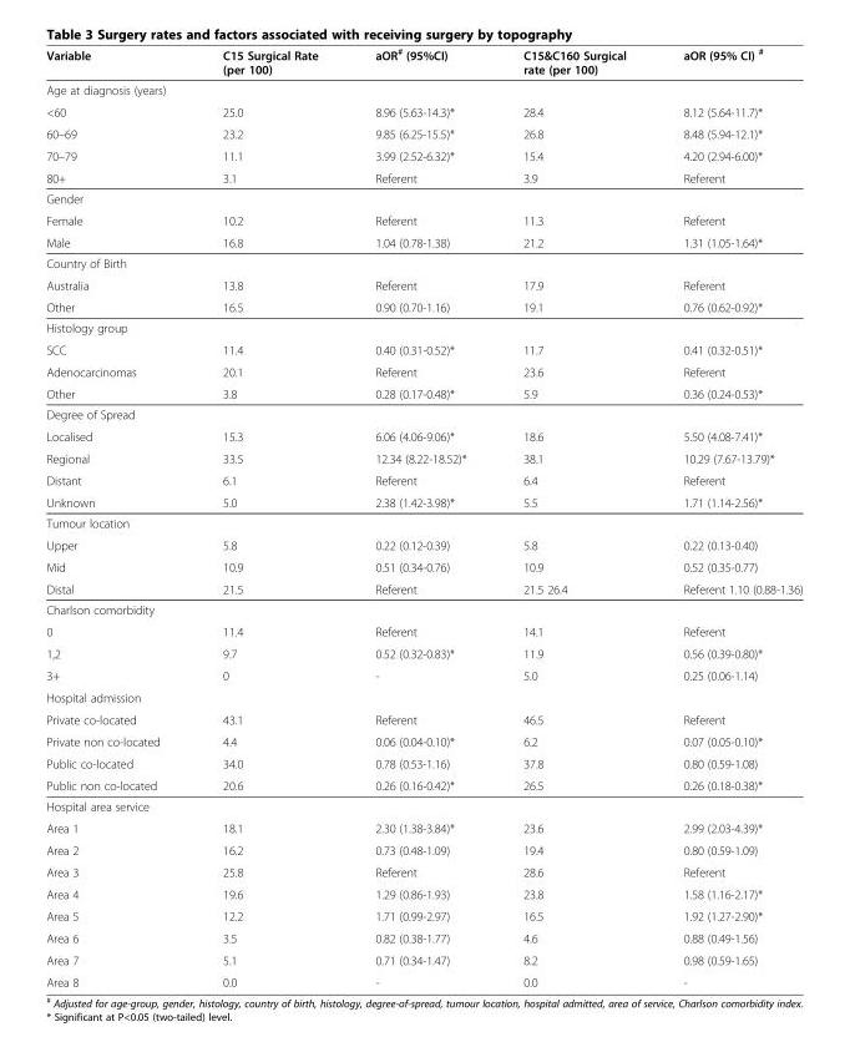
<table><thead><tr><td>Variable</td><td>C15 Surgical Rate (per 100)</td><td>aOR<sup>#</sup> (95%CI)</td><td>C15&amp;C160 Surgical rate (per 100)</td><td>aOR (95% CI) <sup>#</sup></td></tr></thead><tbody><tr><td colspan="5">Age at diagnosis (years)</td></tr><tr><td>&lt;60</td><td>25.0</td><td>8.96 (5.63-14.3)*</td><td>28.4</td><td>8.12 (5.64-11.7)*</td></tr><tr><td>60–69</td><td>23.2</td><td>9.85 (6.25-15.5)*</td><td>26.8</td><td>8.48 (5.94-12.1)*</td></tr><tr><td>70–79</td><td>11.1</td><td>3.99 (2.52-6.32)*</td><td>15.4</td><td>4.20 (2.94-6.00)*</td></tr><tr><td>80+</td><td>3.1</td><td>Referent</td><td>3.9</td><td>Referent</td></tr><tr><td colspan="5">Gender</td></tr><tr><td>Female</td><td>10.2</td><td>Referent</td><td>11.3</td><td>Referent</td></tr><tr><td>Male</td><td>16.8</td><td>1.04 (0.78-1.38)</td><td>21.2</td><td>1.31 (1.05-1.64)*</td></tr><tr><td colspan="5">Country of Birth</td></tr><tr><td>Australia</td><td>13.8</td><td>Referent</td><td>17.9</td><td>Referent</td></tr><tr><td>Other</td><td>16.5</td><td>0.90 (0.70-1.16)</td><td>19.1</td><td>0.76 (0.62-0.92)*</td></tr><tr><td colspan="5">Histology group</td></tr><tr><td>SCC</td><td>11.4</td><td>0.40 (0.31-0.52)*</td><td>11.7</td><td>0.41 (0.32-0.51)*</td></tr><tr><td>Adenocarcinomas</td><td>20.1</td><td>Referent</td><td>23.6</td><td>Referent</td></tr><tr><td>Other</td><td>3.8</td><td>0.28 (0.17-0.48)*</td><td>5.9</td><td>0.36 (0.24-0.53)*</td></tr><tr><td colspan="5">Degree of Spread</td></tr><tr><td>Localised</td><td>15.3</td><td>6.06 (4.06-9.06)*</td><td>18.6</td><td>5.50 (4.08-7.41)*</td></tr><tr><td>Regional</td><td>33.5</td><td>12.34 (8.22-18.52)*</td><td>38.1</td><td>10.29 (7.67-13.79)*</td></tr><tr><td>Distant</td><td>6.1</td><td>Referent</td><td>6.4</td><td>Referent</td></tr><tr><td>Unknown</td><td>5.0</td><td>2.38 (1.42-3.98)*</td><td>5.5</td><td>1.71 (1.14-2.56)*</td></tr><tr><td colspan="5">Tumour location</td></tr><tr><td>Upper</td><td>5.8</td><td>0.22 (0.12-0.39)</td><td>5.8</td><td>0.22 (0.13-0.40)</td></tr><tr><td>Mid</td><td>10.9</td><td>0.51 (0.34-0.76)</td><td>10.9</td><td>0.52 (0.35-0.77)</td></tr><tr><td>Distal</td><td>21.5</td><td>Referent</td><td>21.5 26.4</td><td>Referent 1.10 (0.88-1.36)</td></tr><tr><td colspan="5">Charlson comorbidity</td></tr><tr><td>0</td><td>11.4</td><td>Referent</td><td>14.1</td><td>Referent</td></tr><tr><td>1,2</td><td>9.7</td><td>0.52 (0.32-0.83)*</td><td>11.9</td><td>0.56 (0.39-0.80)*</td></tr><tr><td>3+</td><td>0</td><td>-</td><td>5.0</td><td>0.25 (0.06-1.14)</td></tr><tr><td colspan="5">Hospital admission</td></tr><tr><td>Private co-located</td><td>43.1</td><td>Referent</td><td>46.5</td><td>Referent</td></tr><tr><td>Private non co-located</td><td>4.4</td><td>0.06 (0.04-0.10)*</td><td>6.2</td><td>0.07 (0.05-0.10)*</td></tr><tr><td>Public co-located</td><td>34.0</td><td>0.78 (0.53-1.16)</td><td>37.8</td><td>0.80 (0.59-1.08)</td></tr><tr><td>Public non co-located</td><td>20.6</td><td>0.26 (0.16-0.42)*</td><td>26.5</td><td>0.26 (0.18-0.38)*</td></tr><tr><td colspan="5">Hospital area service</td></tr><tr><td>Area 1</td><td>18.1</td><td>2.30 (1.38-3.84)*</td><td>23.6</td><td>2.99 (2.03-4.39)*</td></tr><tr><td>Area 2</td><td>16.2</td><td>0.73 (0.48-1.09)</td><td>19.4</td><td>0.80 (0.59-1.09)</td></tr><tr><td>Area 3</td><td>25.8</td><td>Referent</td><td>28.6</td><td>Referent</td></tr><tr><td>Area 4</td><td>19.6</td><td>1.29 (0.86-1.93)</td><td>23.8</td><td>1.58 (1.16-2.17)*</td></tr><tr><td>Area 5</td><td>12.2</td><td>1.71 (0.99-2.97)</td><td>16.5</td><td>1.92 (1.27-2.90)*</td></tr><tr><td>Area 6</td><td>3.5</td><td>0.82 (0.38-1.77)</td><td>4.6</td><td>0.88 (0.49-1.56)</td></tr><tr><td>Area 7</td><td>5.1</td><td>0.71 (0.34-1.47)</td><td>8.2</td><td>0.98 (0.59-1.65)</td></tr><tr><td>Area 8</td><td>0.0</td><td>-</td><td>0.0</td><td>-</td></tr></tbody></table>